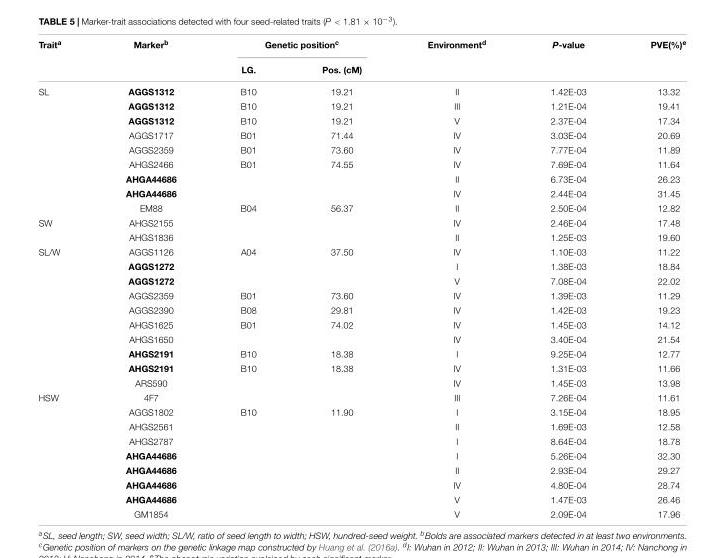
<table><thead><tr><td rowspan="2">Trait<sup>a</sup></td><td rowspan="2">Marker<sup>b</sup></td><td colspan="2">Genetic position<sup>c</sup></td><td rowspan="2">Environment<sup>d</sup></td><td rowspan="2">P-value</td><td rowspan="2">PVE(%)<sup>e</sup></td></tr><tr><td>LG.</td><td>Pos. (cM)</td></tr></thead><tbody><tr><td rowspan="9">SL</td><td>AGGS1312</td><td>B10</td><td>19.21</td><td>II</td><td>1.42E-03</td><td>13.32</td></tr><tr><td>AGGS1312</td><td>B10</td><td>19.21</td><td>III</td><td>1.21E-04</td><td>19.41</td></tr><tr><td>AGGS1312</td><td>B10</td><td>19.21</td><td>V</td><td>2.37E-04</td><td>17.34</td></tr><tr><td>AGGS1717</td><td>B01</td><td>71.44</td><td>IV</td><td>3.03E-04</td><td>20.69</td></tr><tr><td>AGGS2359</td><td>B01</td><td>73.60</td><td>IV</td><td>7.77E-04</td><td>11.89</td></tr><tr><td>AHGS2466</td><td>B01</td><td>74.55</td><td>IV</td><td>7.69E-04</td><td>11.64</td></tr><tr><td>AHGA44686</td><td></td><td></td><td>II</td><td>6.73E-04</td><td>26.23</td></tr><tr><td>AHGA44686</td><td></td><td></td><td>IV</td><td>2.44E-04</td><td>31.45</td></tr><tr><td>EM88</td><td>B04</td><td>56.37</td><td>II</td><td>2.50E-04</td><td>12.82</td></tr><tr><td rowspan="2">SW</td><td>AHGS2155</td><td></td><td></td><td>IV</td><td>2.46E-04</td><td>17.48</td></tr><tr><td>AHGS1836</td><td></td><td></td><td>II</td><td>1.25E-03</td><td>19.60</td></tr><tr><td rowspan="10">SL/W</td><td>AGGS1126</td><td>A04</td><td>37.50</td><td>IV</td><td>1.10E-03</td><td>11.22</td></tr><tr><td>AGGS1272</td><td></td><td></td><td>I</td><td>1.38E-03</td><td>18.84</td></tr><tr><td>AGGS1272</td><td></td><td></td><td>V</td><td>7.08E-04</td><td>22.02</td></tr><tr><td>AGGS2359</td><td>B01</td><td>73.60</td><td>IV</td><td>1.39E-03</td><td>11.29</td></tr><tr><td>AGGS2390</td><td>B08</td><td>29.81</td><td>IV</td><td>1.42E-03</td><td>19.23</td></tr><tr><td>AHGS1625</td><td>B01</td><td>74.02</td><td>IV</td><td>1.45E-03</td><td>14.12</td></tr><tr><td>AHGS1650</td><td></td><td></td><td>IV</td><td>3.40E-04</td><td>21.54</td></tr><tr><td>AHGS2191</td><td>B10</td><td>18.38</td><td>I</td><td>9.25E-04</td><td>12.77</td></tr><tr><td>AHGS2191</td><td>B10</td><td>18.38</td><td>IV</td><td>1.31E-03</td><td>11.66</td></tr><tr><td>ARS590</td><td></td><td></td><td>IV</td><td>1.45E-03</td><td>13.98</td></tr><tr><td rowspan="9">HSW</td><td>4F7</td><td></td><td></td><td>III</td><td>7.26E-04</td><td>11.61</td></tr><tr><td>AGGS1802</td><td>B10</td><td>11.90</td><td>I</td><td>3.15E-04</td><td>18.95</td></tr><tr><td>AHGS2561</td><td></td><td></td><td>II</td><td>1.69E-03</td><td>12.58</td></tr><tr><td>AHGS2787</td><td></td><td></td><td>I</td><td>8.64E-04</td><td>18.78</td></tr><tr><td>AHGA44686</td><td></td><td></td><td>I</td><td>5.26E-04</td><td>32.30</td></tr><tr><td>AHGA44686</td><td></td><td></td><td>II</td><td>2.93E-04</td><td>29.27</td></tr><tr><td>AHGA44686</td><td></td><td></td><td>IV</td><td>4.80E-04</td><td>28.74</td></tr><tr><td>AHGA44686</td><td></td><td></td><td>V</td><td>1.47E-03</td><td>26.46</td></tr><tr><td>GM1854</td><td></td><td></td><td>V</td><td>2.09E-04</td><td>17.96</td></tr></tbody></table>